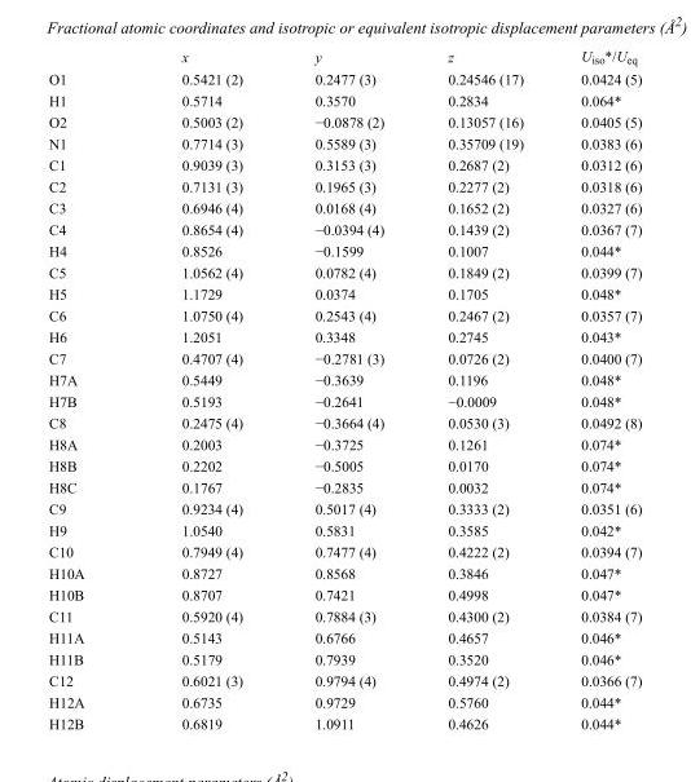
<table><thead><tr><td></td><td>x</td><td>y</td><td>z</td><td>U<sub>iso</sub>*/U<sub>eq</sub></td></tr></thead><tbody><tr><td>O1</td><td>0.5421 (2)</td><td>0.2477 (3)</td><td>0.24546 (17)</td><td>0.0424 (5)</td></tr><tr><td>H1</td><td>0.5714</td><td>0.3570</td><td>0.2834</td><td>0.064*</td></tr><tr><td>O2</td><td>0.5003 (2)</td><td>−0.0878 (2)</td><td>0.13057 (16)</td><td>0.0405 (5)</td></tr><tr><td>N1</td><td>0.7714 (3)</td><td>0.5589 (3)</td><td>0.35709 (19)</td><td>0.0383 (6)</td></tr><tr><td>C1</td><td>0.9039 (3)</td><td>0.3153 (3)</td><td>0.2687 (2)</td><td>0.0312 (6)</td></tr><tr><td>C2</td><td>0.7131 (3)</td><td>0.1965 (3)</td><td>0.2277 (2)</td><td>0.0318 (6)</td></tr><tr><td>C3</td><td>0.6946 (4)</td><td>0.0168 (4)</td><td>0.1652 (2)</td><td>0.0327 (6)</td></tr><tr><td>C4</td><td>0.8654 (4)</td><td>−0.0394 (4)</td><td>0.1439 (2)</td><td>0.0367 (7)</td></tr><tr><td>H4</td><td>0.8526</td><td>−0.1599</td><td>0.1007</td><td>0.044*</td></tr><tr><td>C5</td><td>1.0562 (4)</td><td>0.0782 (4)</td><td>0.1849 (2)</td><td>0.0399 (7)</td></tr><tr><td>H5</td><td>1.1729</td><td>0.0374</td><td>0.1705</td><td>0.048*</td></tr><tr><td>C6</td><td>1.0750 (4)</td><td>0.2543 (4)</td><td>0.2467 (2)</td><td>0.0357 (7)</td></tr><tr><td>H6</td><td>1.2051</td><td>0.3348</td><td>0.2745</td><td>0.043*</td></tr><tr><td>C7</td><td>0.4707 (4)</td><td>−0.2781 (3)</td><td>0.0726 (2)</td><td>0.0400 (7)</td></tr><tr><td>H7A</td><td>0.5449</td><td>−0.3639</td><td>0.1196</td><td>0.048*</td></tr><tr><td>H7B</td><td>0.5193</td><td>−0.2641</td><td>−0.0009</td><td>0.048*</td></tr><tr><td>C8</td><td>0.2475 (4)</td><td>−0.3664 (4)</td><td>0.0530 (3)</td><td>0.0492 (8)</td></tr><tr><td>H8A</td><td>0.2003</td><td>−0.3725</td><td>0.1261</td><td>0.074*</td></tr><tr><td>H8B</td><td>0.2202</td><td>−0.5005</td><td>0.0170</td><td>0.074*</td></tr><tr><td>H8C</td><td>0.1767</td><td>−0.2835</td><td>0.0032</td><td>0.074*</td></tr><tr><td>C9</td><td>0.9234 (4)</td><td>0.5017 (4)</td><td>0.3333 (2)</td><td>0.0351 (6)</td></tr><tr><td>H9</td><td>1.0540</td><td>0.5831</td><td>0.3585</td><td>0.042*</td></tr><tr><td>C10</td><td>0.7949 (4)</td><td>0.7477 (4)</td><td>0.4222 (2)</td><td>0.0394 (7)</td></tr><tr><td>H10A</td><td>0.8727</td><td>0.8568</td><td>0.3846</td><td>0.047*</td></tr><tr><td>H10B</td><td>0.8707</td><td>0.7421</td><td>0.4998</td><td>0.047*</td></tr><tr><td>C11</td><td>0.5920 (4)</td><td>0.7884 (3)</td><td>0.4300 (2)</td><td>0.0384 (7)</td></tr><tr><td>H11A</td><td>0.5143</td><td>0.6766</td><td>0.4657</td><td>0.046*</td></tr><tr><td>H11B</td><td>0.5179</td><td>0.7939</td><td>0.3520</td><td>0.046*</td></tr><tr><td>C12</td><td>0.6021 (3)</td><td>0.9794 (4)</td><td>0.4974 (2)</td><td>0.0366 (7)</td></tr><tr><td>H12A</td><td>0.6735</td><td>0.9729</td><td>0.5760</td><td>0.044*</td></tr><tr><td>H12B</td><td>0.6819</td><td>1.0911</td><td>0.4626</td><td>0.044*</td></tr></tbody></table>